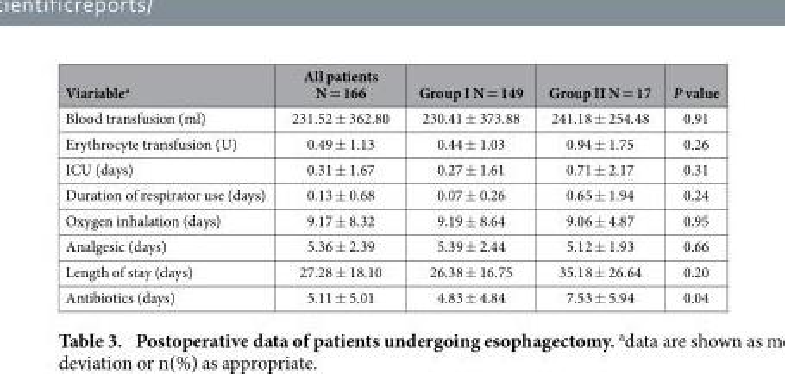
<table><thead><tr><td>Viariable<sup>a</sup></td><td>All patients N = 166</td><td>Group I N = 149</td><td>Group II N = 17</td><td>P value</td></tr></thead><tbody><tr><td>Blood transfusion (ml)</td><td>231.52 ± 362.80</td><td>230.41 ± 373.88</td><td>241.18 ± 254.48</td><td>0.91</td></tr><tr><td>Erythrocyte transfusion (U)</td><td>0.49 ± 1.13</td><td>0.44 ± 1.03</td><td>0.94 ± 1.75</td><td>0.26</td></tr><tr><td>ICU (days)</td><td>0.31 ± 1.67</td><td>0.27 ± 1.61</td><td>0.71 ± 2.17</td><td>0.31</td></tr><tr><td>Duration of respirator use (days)</td><td>0.13 ± 0.68</td><td>0.07 ± 0.26</td><td>0.65 ± 1.94</td><td>0.24</td></tr><tr><td>Oxygen inhalation (days)</td><td>9.17 ± 8.32</td><td>9.19 ± 8.64</td><td>9.06 ± 4.87</td><td>0.95</td></tr><tr><td>Analgesic (days)</td><td>5.36 ± 2.39</td><td>5.39 ± 2.44</td><td>5.12 ± 1.93</td><td>0.66</td></tr><tr><td>Length of stay (days)</td><td>27.28 ± 18.10</td><td>26.38 ± 16.75</td><td>35.18 ± 26.64</td><td>0.20</td></tr><tr><td>Antibiotics (days)</td><td>5.11 ± 5.01</td><td>4.83 ± 4.84</td><td>7.53 ± 5.94</td><td>0.04</td></tr></tbody></table>